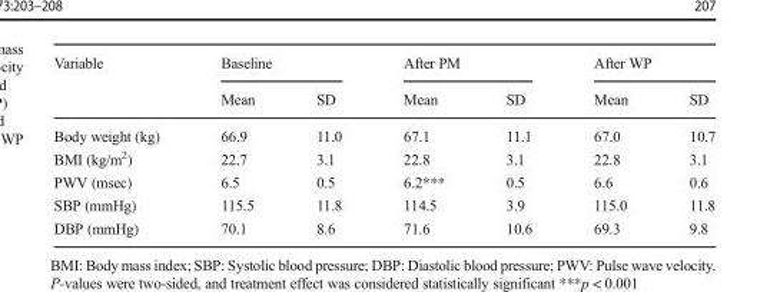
<table><thead><tr><td rowspan="2">Variable</td><td colspan="2">Baseline</td><td colspan="2">After PM</td><td colspan="2">After WP</td></tr><tr><td>Mean</td><td>SD</td><td>Mean</td><td>SD</td><td>Mean</td><td>SD</td></tr></thead><tbody><tr><td>Body weight (kg)</td><td>66.9</td><td>11.0</td><td>67.1</td><td>11.1</td><td>67.0</td><td>10.7</td></tr><tr><td>BMI (kg/m<sup>2</sup>)</td><td>22.7</td><td>3.1</td><td>22.8</td><td>3.1</td><td>22.8</td><td>3.1</td></tr><tr><td>PWV (msec)</td><td>6.5</td><td>0.5</td><td>6.2***</td><td>0.5</td><td>6.6</td><td>0.6</td></tr><tr><td>SBP (mmHg)</td><td>115.5</td><td>11.8</td><td>114.5</td><td>3.9</td><td>115.0</td><td>11.8</td></tr><tr><td>DBP (mmHg)</td><td>70.1</td><td>8.6</td><td>71.6</td><td>10.6</td><td>69.3</td><td>9.8</td></tr></tbody></table>